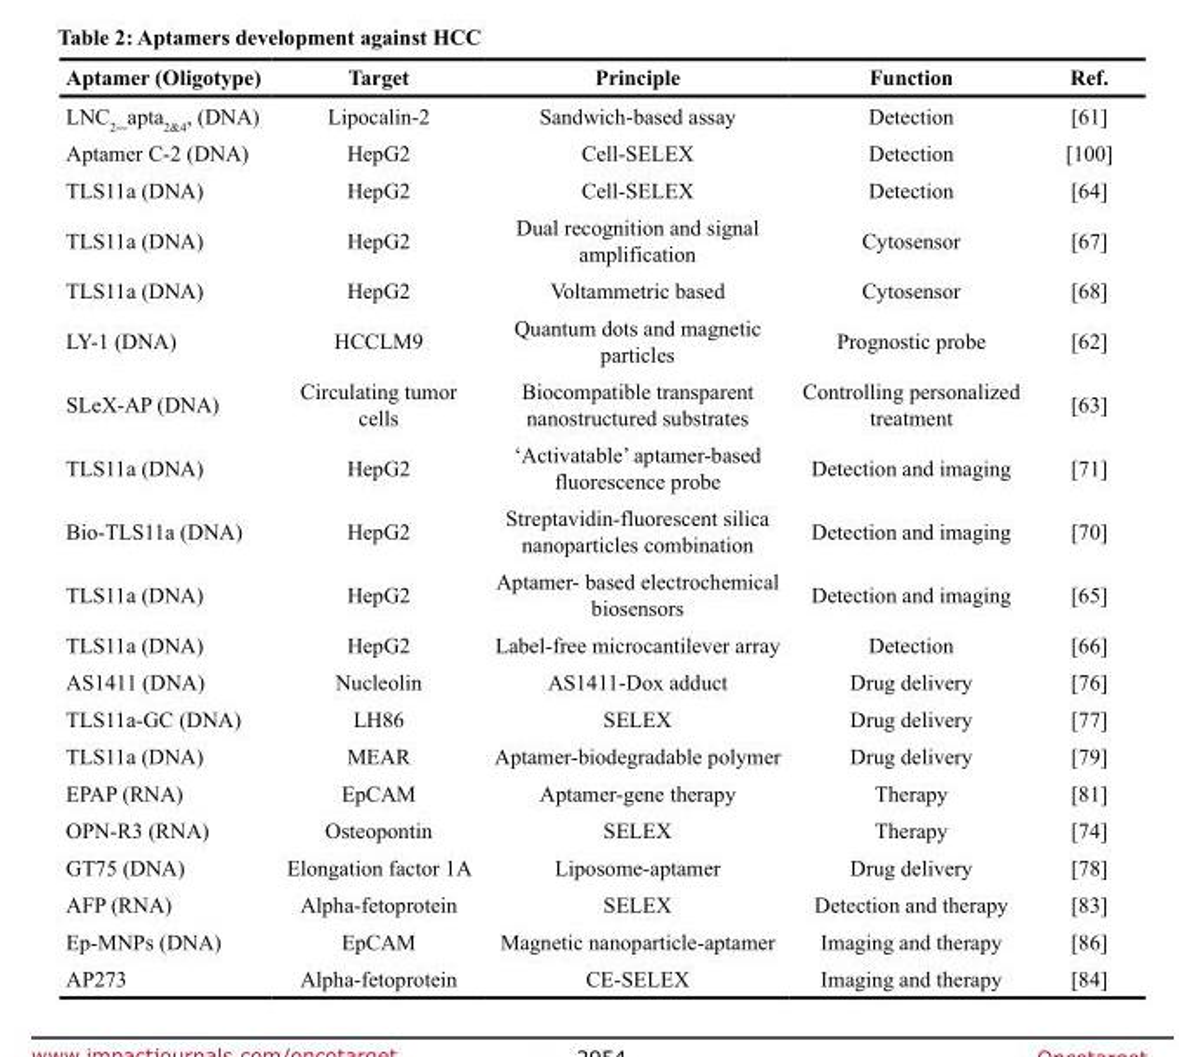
<table><thead><tr><td>Aptamer (Oligotype)</td><td>Target</td><td>Principle</td><td>Function</td><td>Ref.</td></tr></thead><tbody><tr><td>LNC2_apta2&amp;4, (DNA)</td><td>Lipocalin-2</td><td>Sandwich-based assay</td><td>Detection</td><td>[61]</td></tr><tr><td>Aptamer C-2 (DNA)</td><td>HepG2</td><td>Cell-SELEX</td><td>Detection</td><td>[100]</td></tr><tr><td>TLS11a (DNA)</td><td>HepG2</td><td>Cell-SELEX</td><td>Detection</td><td>[64]</td></tr><tr><td>TLS11a (DNA)</td><td>HepG2</td><td>Dual recognition and signal amplification</td><td>Cytosensor</td><td>[67]</td></tr><tr><td>TLS11a (DNA)</td><td>HepG2</td><td>Voltammetric based</td><td>Cytosensor</td><td>[68]</td></tr><tr><td>LY-1 (DNA)</td><td>HCCLM9</td><td>Quantum dots and magnetic particles</td><td>Prognostic probe</td><td>[62]</td></tr><tr><td>SLeX-AP (DNA)</td><td>Circulating tumor cells</td><td>Biocompatible transparent nanostructured substrates</td><td>Controlling personalized treatment</td><td>[63]</td></tr><tr><td>TLS11a (DNA)</td><td>HepG2</td><td>‘Activatable’ aptamer-based fluorescence probe</td><td>Detection and imaging</td><td>[71]</td></tr><tr><td>Bio-TLS11a (DNA)</td><td>HepG2</td><td>Streptavidin-fluorescent silica nanoparticles combination</td><td>Detection and imaging</td><td>[70]</td></tr><tr><td>TLS11a (DNA)</td><td>HepG2</td><td>Aptamer- based electrochemical biosensors</td><td>Detection and imaging</td><td>[65]</td></tr><tr><td>TLS11a (DNA)</td><td>HepG2</td><td>Label-free microcantilever array</td><td>Detection</td><td>[66]</td></tr><tr><td>AS1411 (DNA)</td><td>Nucleolin</td><td>AS1411-Dox adduct</td><td>Drug delivery</td><td>[76]</td></tr><tr><td>TLS11a-GC (DNA)</td><td>LH86</td><td>SELEX</td><td>Drug delivery</td><td>[77]</td></tr><tr><td>TLS11a (DNA)</td><td>MEAR</td><td>Aptamer-biodegradable polymer</td><td>Drug delivery</td><td>[79]</td></tr><tr><td>EPAP (RNA)</td><td>EpCAM</td><td>Aptamer-gene therapy</td><td>Therapy</td><td>[81]</td></tr><tr><td>OPN-R3 (RNA)</td><td>Osteopontin</td><td>SELEX</td><td>Therapy</td><td>[74]</td></tr><tr><td>GT75 (DNA)</td><td>Elongation factor 1A</td><td>Liposome-aptamer</td><td>Drug delivery</td><td>[78]</td></tr><tr><td>AFP (RNA)</td><td>Alpha-fetoprotein</td><td>SELEX</td><td>Detection and therapy</td><td>[83]</td></tr><tr><td>Ep-MNPs (DNA)</td><td>EpCAM</td><td>Magnetic nanoparticle-aptamer</td><td>Imaging and therapy</td><td>[86]</td></tr><tr><td>AP273</td><td>Alpha-fetoprotein</td><td>CE-SELEX</td><td>Imaging and therapy</td><td>[84]</td></tr></tbody></table>